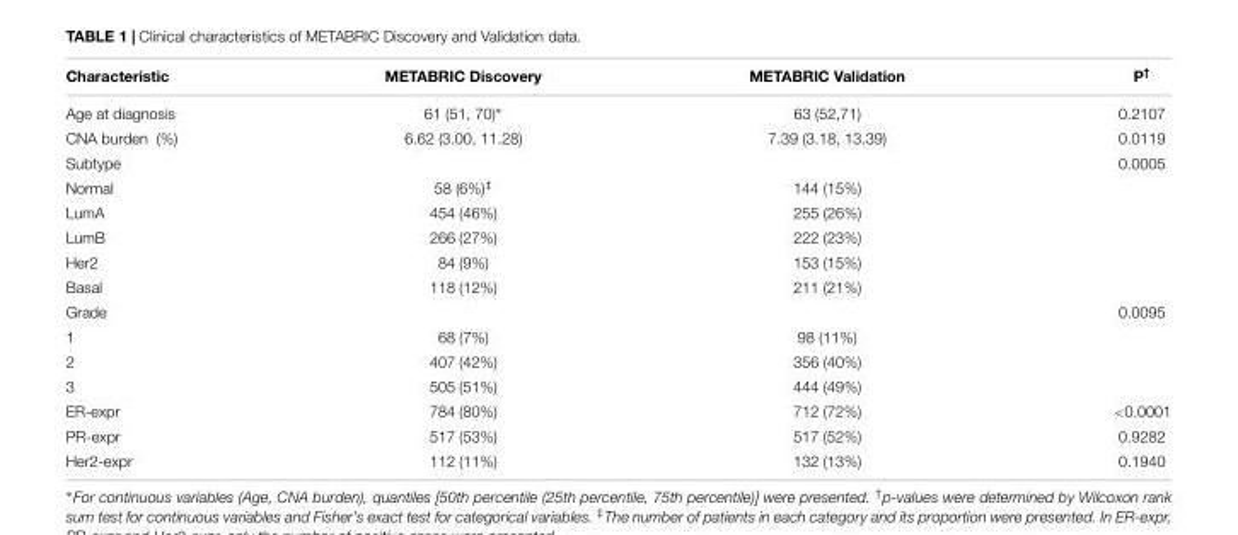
<table><thead><tr><td>Characteristic</td><td>METABRIC Discovery</td><td>METABRIC Validation</td><td>P†††</td></tr></thead><tbody><tr><td>Age at diagnosis</td><td>61 (51, 70)∗</td><td>63 (52,71)</td><td>0.2107</td></tr><tr><td>CNA burden (%)</td><td>6.62 (3.00, 11.28)</td><td>7.39 (3.18, 13.39)</td><td>0.0119</td></tr><tr><td>Subtype</td><td></td><td></td><td>0.0005</td></tr><tr><td>Normal</td><td>58 (6%)<sup>‡</sup></td><td>144 (15%)</td><td></td></tr><tr><td>LumA</td><td>454 (46%)</td><td>255 (26%)</td><td></td></tr><tr><td>LumB</td><td>266 (27%)</td><td>222 (23%)</td><td></td></tr><tr><td>Her2</td><td>84 (9%)</td><td>153 (15%)</td><td></td></tr><tr><td>Basal</td><td>118 (12%)</td><td>211 (21%)</td><td></td></tr><tr><td>Grade</td><td></td><td></td><td>0.0095</td></tr><tr><td>1</td><td>68 (7%)</td><td>98 (11%)</td><td></td></tr><tr><td>2</td><td>407 (42%)</td><td>356 (40%)</td><td></td></tr><tr><td>3</td><td>505 (51%)</td><td>444 (49%)</td><td></td></tr><tr><td>ER-expr</td><td>784 (80%)</td><td>712 (72%)</td><td>&lt;0.0001</td></tr><tr><td>PR-expr</td><td>517 (53%)</td><td>517 (52%)</td><td>0.9282</td></tr><tr><td>Her2-expr</td><td>112 (11%)</td><td>132 (13%)</td><td>0.1940</td></tr></tbody></table>